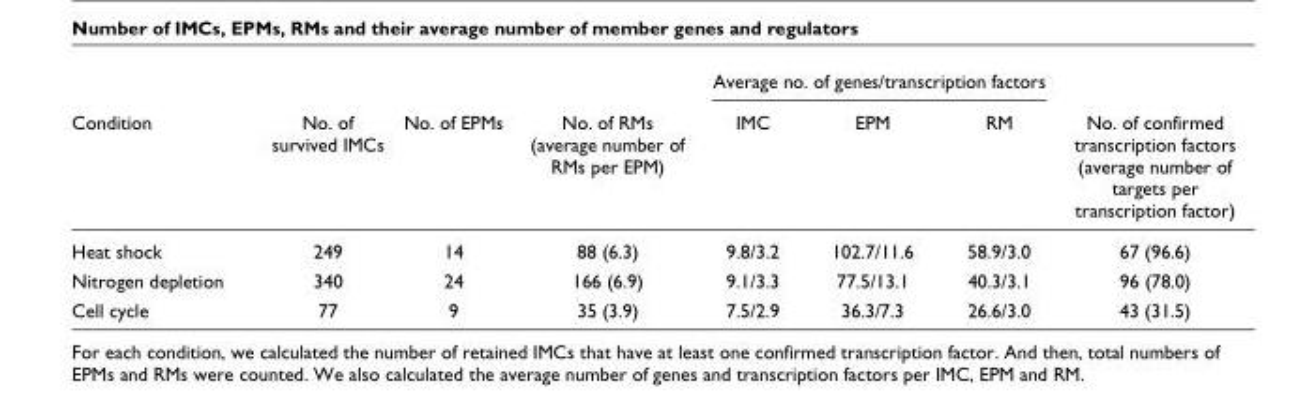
<table><thead><tr><td rowspan="2">Condition</td><td rowspan="2">No. of survived IMCs</td><td rowspan="2">No. of EPMs</td><td rowspan="2">No. of RMs (average number of RMs per EPM)</td><td colspan="3">Average no. of genes/transcription factors</td><td rowspan="2">No. of confirmed transcription factors (average number of targets per transcription factor)</td></tr><tr><td>IMC</td><td>EPM</td><td>RM</td></tr></thead><tbody><tr><td>Heat shock</td><td>249</td><td>14</td><td>88 (6.3)</td><td>9.8/3.2</td><td>102.7/11.6</td><td>58.9/3.0</td><td>67 (96.6)</td></tr><tr><td>Nitrogen depletion</td><td>340</td><td>24</td><td>166 (6.9)</td><td>9.1/3.3</td><td>77.5/13.1</td><td>40.3/3.1</td><td>96 (78.0)</td></tr><tr><td>Cell cycle</td><td>77</td><td>9</td><td>35 (3.9)</td><td>7.5/2.9</td><td>36.3/7.3</td><td>26.6/3.0</td><td>43 (31.5)</td></tr></tbody></table>